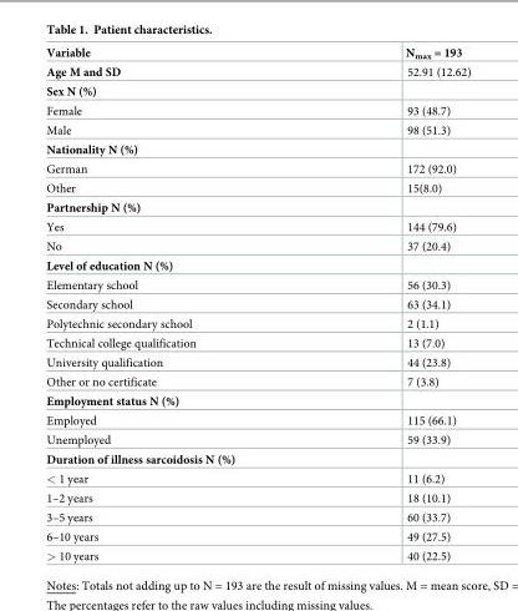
<table><thead><tr><td>Variable</td><td>N<sub>max</sub> = 193</td></tr></thead><tbody><tr><td>Age M and SD</td><td>52.91 (12.62)</td></tr><tr><td colspan="2">Sex N (%)</td></tr><tr><td>Female</td><td>93 (48.7)</td></tr><tr><td>Male</td><td>98 (51.3)</td></tr><tr><td colspan="2">Nationality N (%)</td></tr><tr><td>German</td><td>172 (92.0)</td></tr><tr><td>Other</td><td>15(8.0)</td></tr><tr><td colspan="2">Partnership N (%)</td></tr><tr><td>Yes</td><td>144 (79.6)</td></tr><tr><td>No</td><td>37 (20.4)</td></tr><tr><td colspan="2">Level of education N (%)</td></tr><tr><td>Elementary school</td><td>56 (30.3)</td></tr><tr><td>Secondary school</td><td>63 (34.1)</td></tr><tr><td>Polytechnic secondary school</td><td>2 (1.1)</td></tr><tr><td>Technical college qualification</td><td>13 (7.0)</td></tr><tr><td>University qualification</td><td>44 (23.8)</td></tr><tr><td>Other or no certificate</td><td>7 (3.8)</td></tr><tr><td colspan="2">Employment status N (%)</td></tr><tr><td>Employed</td><td>115 (66.1)</td></tr><tr><td>Unemployed</td><td>59 (33.9)</td></tr><tr><td colspan="2">Duration of illness sarcoidosis N (%)</td></tr><tr><td>&lt; 1 year</td><td>11 (6.2)</td></tr><tr><td>1–2 years</td><td>18 (10.1)</td></tr><tr><td>3–5 years</td><td>60 (33.7)</td></tr><tr><td>6–10 years</td><td>49 (27.5)</td></tr><tr><td>&gt; 10 years</td><td>40 (22.5)</td></tr></tbody></table>